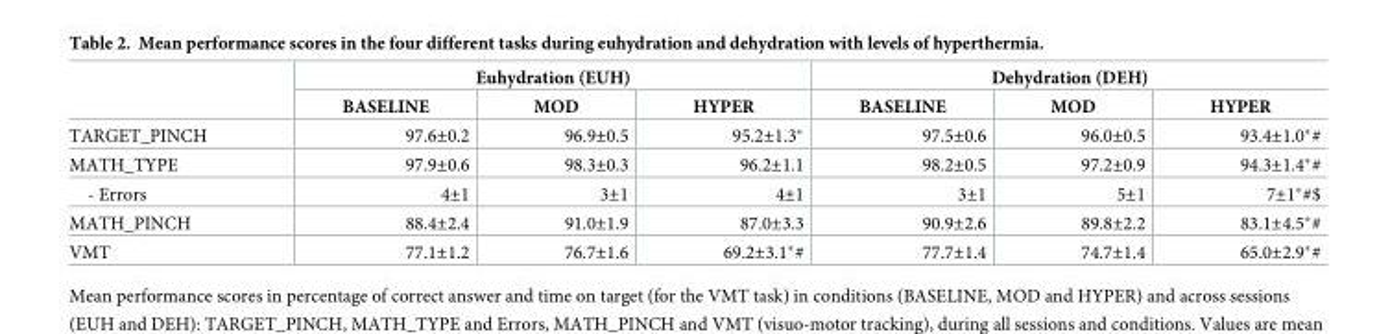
<table><thead><tr><td rowspan="2"></td><td colspan="3">Euhydration (EUH)</td><td colspan="3">Dehydration (DEH)</td></tr><tr><td>BASELINE</td><td>MOD</td><td>HYPER</td><td>BASELINE</td><td>MOD</td><td>HYPER</td></tr></thead><tbody><tr><td>TARGET_PINCH</td><td>97.6±0.2</td><td>96.9±0.5</td><td>95.2±1.3*</td><td>97.5±0.6</td><td>96.0±0.5</td><td>93.4±1.0*#</td></tr><tr><td>MATH_TYPE</td><td>97.9±0.6</td><td>98.3±0.3</td><td>96.2±1.1</td><td>98.2±0.5</td><td>97.2±0.9</td><td>94.3±1.4*#</td></tr><tr><td>- Errors</td><td>4±1</td><td>3±1</td><td>4±1</td><td>3±1</td><td>5±1</td><td>7±1*#$</td></tr><tr><td>MATH_PINCH</td><td>88.4±2.4</td><td>91.0±1.9</td><td>87.0±3.3</td><td>90.9±2.6</td><td>89.8±2.2</td><td>83.1±4.5*#</td></tr><tr><td>VMT</td><td>77.1±1.2</td><td>76.7±1.6</td><td>69.2±3.1*#</td><td>77.7±1.4</td><td>74.7±1.4</td><td>65.0±2.9*#</td></tr></tbody></table>